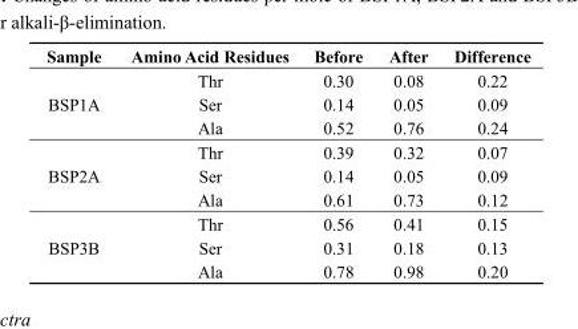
<table><thead><tr><td>Sample</td><td>Amino Acid Residues</td><td>Before</td><td>After</td><td>Difference</td></tr></thead><tbody><tr><td rowspan="3">BSP1A</td><td>Thr</td><td>0.30</td><td>0.08</td><td>0.22</td></tr><tr><td>Ser</td><td>0.14</td><td>0.05</td><td>0.09</td></tr><tr><td>Ala</td><td>0.52</td><td>0.76</td><td>0.24</td></tr><tr><td rowspan="3">BSP2A</td><td>Thr</td><td>0.39</td><td>0.32</td><td>0.07</td></tr><tr><td>Ser</td><td>0.14</td><td>0.05</td><td>0.09</td></tr><tr><td>Ala</td><td>0.61</td><td>0.73</td><td>0.12</td></tr><tr><td rowspan="3">BSP3B</td><td>Thr</td><td>0.56</td><td>0.41</td><td>0.15</td></tr><tr><td>Ser</td><td>0.31</td><td>0.18</td><td>0.13</td></tr><tr><td>Ala</td><td>0.78</td><td>0.98</td><td>0.20</td></tr></tbody></table>